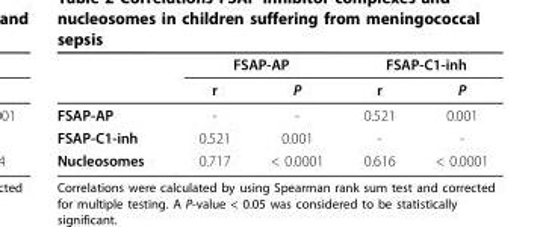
<table><thead><tr><td rowspan="2"></td><td colspan="2">FSAP-AP</td><td colspan="2">FSAP-C1-inh</td></tr><tr><td>r</td><td>P</td><td>r</td><td>P</td></tr></thead><tbody><tr><td>FSAP-AP</td><td>-</td><td>-</td><td>0.521</td><td>0.001</td></tr><tr><td>FSAP-C1-inh</td><td>0.521</td><td>0.001</td><td>-</td><td>-</td></tr><tr><td>Nucleosomes</td><td>0.717</td><td>&lt; 0.0001</td><td>0.616</td><td>&lt; 0.0001</td></tr></tbody></table>